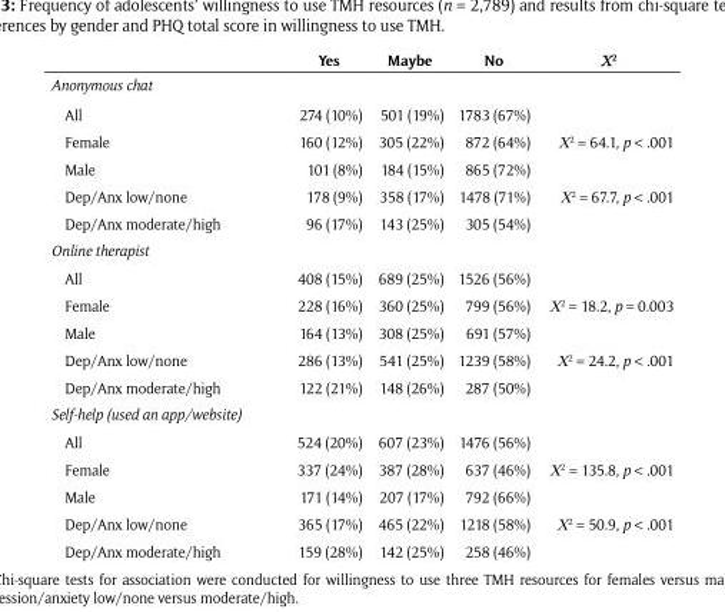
<table><thead><tr><td></td><td>Yes</td><td>Maybe</td><td>No</td><td>Χ2</td></tr></thead><tbody><tr><td colspan="5">Anonymous chat</td></tr><tr><td>All</td><td>274 (10%)</td><td>501 (19%)</td><td>1783 (67%)</td><td></td></tr><tr><td>Female</td><td>160 (12%)</td><td>305 (22%)</td><td>872 (64%)</td><td>Χ2 = 64.1, p &lt; .001</td></tr><tr><td>Male</td><td>101 (8%)</td><td>184 (15%)</td><td>865 (72%)</td><td></td></tr><tr><td>Dep/Anx low/none</td><td>178 (9%)</td><td>358 (17%)</td><td>1478 (71%)</td><td>Χ2 = 67.7, p &lt; .001</td></tr><tr><td>Dep/Anx moderate/high</td><td>96 (17%)</td><td>143 (25%)</td><td>305 (54%)</td><td></td></tr><tr><td colspan="5">Online therapist</td></tr><tr><td>All</td><td>408 (15%)</td><td>689 (25%)</td><td>1526 (56%)</td><td></td></tr><tr><td>Female</td><td>228 (16%)</td><td>360 (25%)</td><td>799 (56%)</td><td>Χ2 = 18.2, p = 0.003</td></tr><tr><td>Male</td><td>164 (13%)</td><td>308 (25%)</td><td>691 (57%)</td><td></td></tr><tr><td>Dep/Anx low/none</td><td>286 (13%)</td><td>541 (25%)</td><td>1239 (58%)</td><td>Χ2 = 24.2, p &lt; .001</td></tr><tr><td>Dep/Anx moderate/high</td><td>122 (21%)</td><td>148 (26%)</td><td>287 (50%)</td><td></td></tr><tr><td colspan="5">Self-help (used an app/website)</td></tr><tr><td>All</td><td>524 (20%)</td><td>607 (23%)</td><td>1476 (56%)</td><td></td></tr><tr><td>Female</td><td>337 (24%)</td><td>387 (28%)</td><td>637 (46%)</td><td>Χ2 = 135.8, p &lt; .001</td></tr><tr><td>Male</td><td>171 (14%)</td><td>207 (17%)</td><td>792 (66%)</td><td></td></tr><tr><td>Dep/Anx low/none</td><td>365 (17%)</td><td>465 (22%)</td><td>1218 (58%)</td><td>Χ2 = 50.9, p &lt; .001</td></tr><tr><td>Dep/Anx moderate/high</td><td>159 (28%)</td><td>142 (25%)</td><td>258 (46%)</td><td></td></tr></tbody></table>